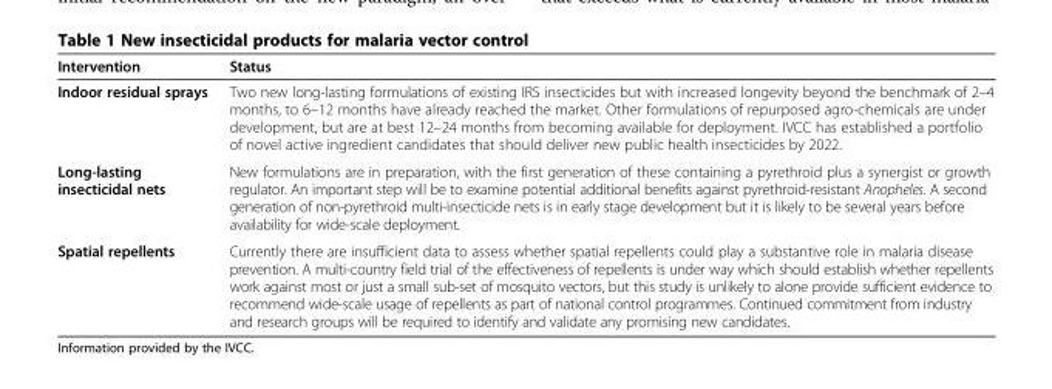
<table><thead><tr><td>Intervention</td><td>Status</td></tr></thead><tbody><tr><td>Indoor residual sprays</td><td>Two new long-lasting formulations of existing IRS insecticides but with increased longevity beyond the benchmark of 2–4 months, to 6–12 months have already reached the market. Other formulations of repurposed agro-chemicals are under development, but are at best 12–24 months from becoming available for deployment. IVCC has established a portfolio of novel active ingredient candidates that should deliver new public health insecticides by 2022.</td></tr><tr><td>Long-lasting insecticidal nets</td><td>New formulations are in preparation, with the first generation of these containing a pyrethroid plus a synergist or growth regulator. An important step will be to examine potential additional benefits against pyrethroid-resistant Anopheles. A second generation of non-pyrethroid multi-insecticide nets is in early stage development but it is likely to be several years before availability for wide-scale deployment.</td></tr><tr><td>Spatial repellents</td><td>Currently there are insufficient data to assess whether spatial repellents could play a substantive role in malaria disease prevention. A multi-country field trial of the effectiveness of repellents is under way which should establish whether repellents work against most or just a small sub-set of mosquito vectors, but this study is unlikely to alone provide sufficient evidence to recommend wide-scale usage of repellents as part of national control programmes. Continued commitment from industry and research groups will be required to identify and validate any promising new candidates.</td></tr></tbody></table>